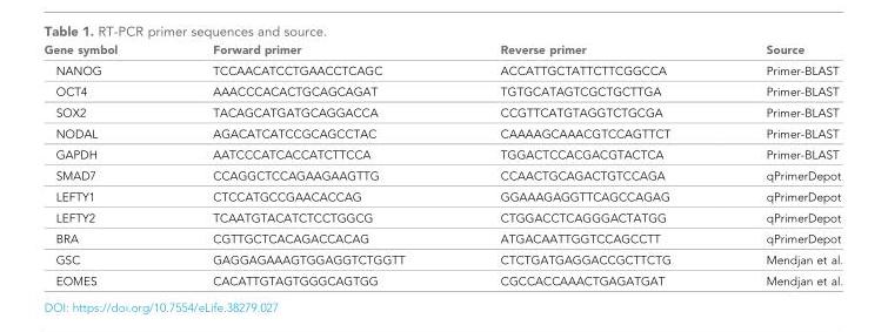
<table><thead><tr><td>Gene symbol</td><td>Forward primer</td><td>Reverse primer</td><td>Source</td></tr></thead><tbody><tr><td>NANOG</td><td>TCCAACATCCTGAACCTCAGC</td><td>ACCATTGCTATTCTTCGGCCA</td><td>Primer-BLAST</td></tr><tr><td>OCT4</td><td>AAACCCACACTGCAGCAGAT</td><td>TGTGCATAGTCGCTGCTTGA</td><td>Primer-BLAST</td></tr><tr><td>SOX2</td><td>TACAGCATGATGCAGGACCA</td><td>CCGTTCATGTAGGTCTGCGA</td><td>Primer-BLAST</td></tr><tr><td>NODAL</td><td>AGACATCATCCGCAGCCTAC</td><td>CAAAAGCAAACGTCCAGTTCT</td><td>Primer-BLAST</td></tr><tr><td>GAPDH</td><td>AATCCCATCACCATCTTCCA</td><td>TGGACTCCACGACGTACTCA</td><td>Primer-BLAST</td></tr><tr><td>SMAD7</td><td>CCAGGCTCCAGAAGAAGTTG</td><td>CCAACTGCAGACTGTCCAGA</td><td>qPrimerDepot</td></tr><tr><td>LEFTY1</td><td>CTCCATGCCGAACACCAG</td><td>GGAAAGAGGTTCAGCCAGAG</td><td>qPrimerDepot</td></tr><tr><td>LEFTY2</td><td>TCAATGTACATCTCCTGGCG</td><td>CTGGACCTCAGGGACTATGG</td><td>qPrimerDepot</td></tr><tr><td>BRA</td><td>CGTTGCTCACAGACCACAG</td><td>ATGACAATTGGTCCAGCCTT</td><td>qPrimerDepot</td></tr><tr><td>GSC</td><td>GAGGAGAAAGTGGAGGTCTGGTT</td><td>CTCTGATGAGGACCGCTTCTG</td><td>Mendjan et al.</td></tr><tr><td>EOMES</td><td>CACATTGTAGTGGGCAGTGG</td><td>CGCCACCAAACTGAGATGAT</td><td>Mendjan et al.</td></tr></tbody></table>